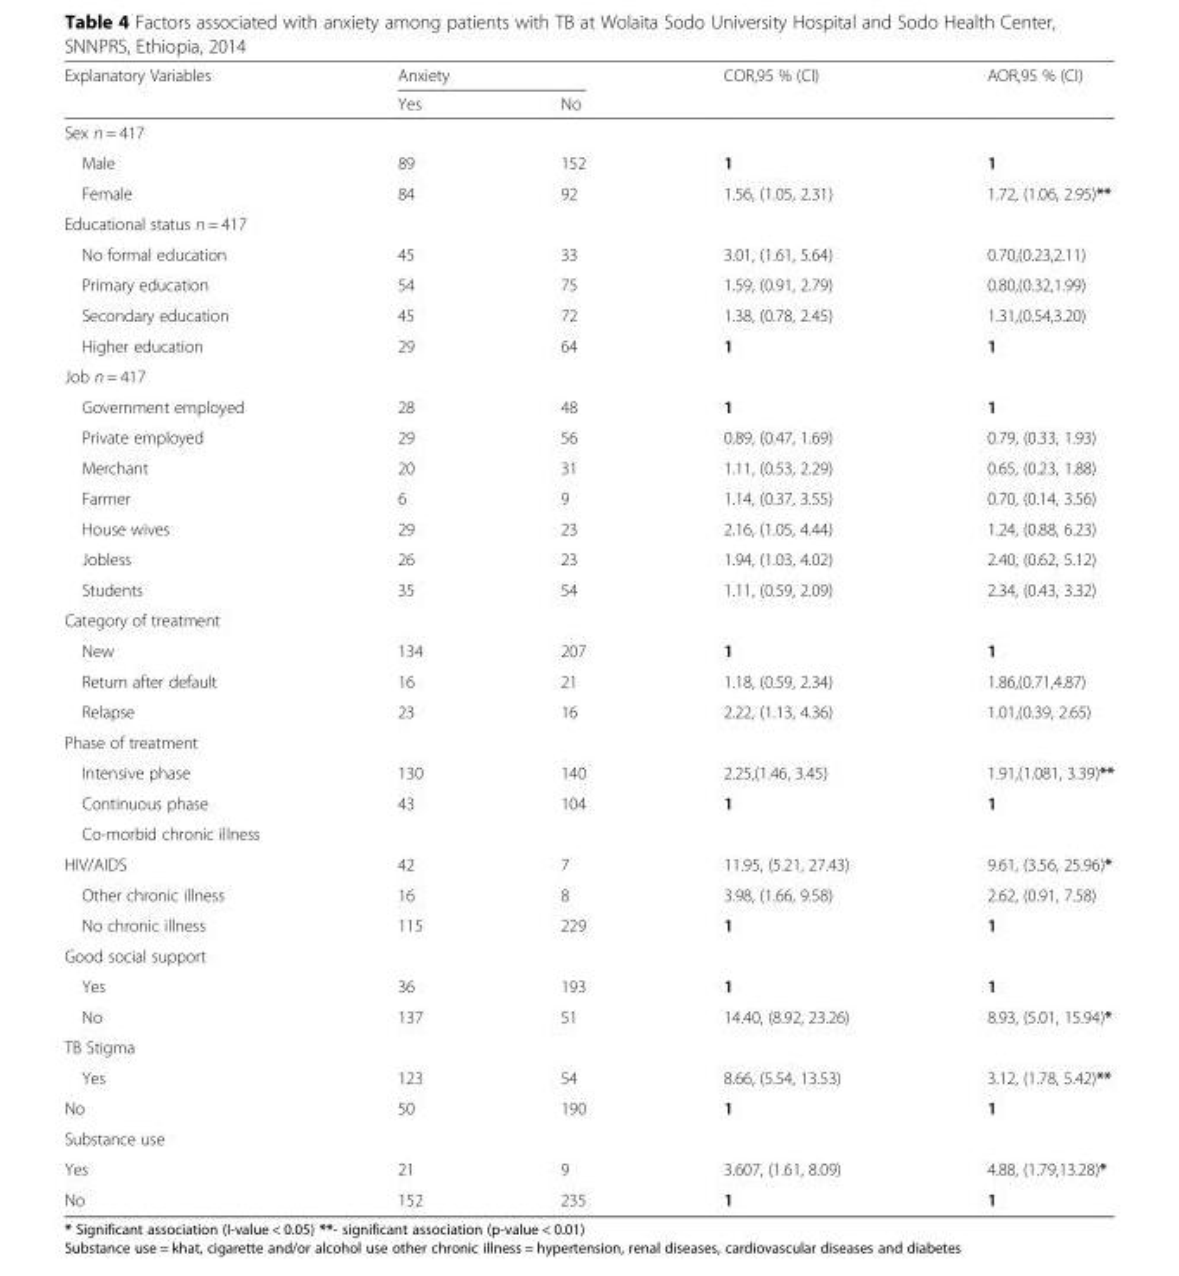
<table><thead><tr><td rowspan="2">Explanatory Variables</td><td colspan="2">Anxiety</td><td rowspan="2">COR,95 % (CI)</td><td rowspan="2">AOR,95 % (CI)</td></tr><tr><td>Yes</td><td>No</td></tr></thead><tbody><tr><td colspan="5">Sex n = 417</td></tr><tr><td>Male</td><td>89</td><td>152</td><td>1</td><td>1</td></tr><tr><td>Female</td><td>84</td><td>92</td><td>1.56, (1.05, 2.31)</td><td>1.72, (1.06, 2.95)**</td></tr><tr><td colspan="5">Educational status n = 417</td></tr><tr><td>No formal education</td><td>45</td><td>33</td><td>3.01, (1.61, 5.64)</td><td>0.70,(0.23,2.11)</td></tr><tr><td>Primary education</td><td>54</td><td>75</td><td>1.59, (0.91, 2.79)</td><td>0.80,(0.32,1.99)</td></tr><tr><td>Secondary education</td><td>45</td><td>72</td><td>1.38, (0.78, 2.45)</td><td>1.31,(0.54,3.20)</td></tr><tr><td>Higher education</td><td>29</td><td>64</td><td>1</td><td>1</td></tr><tr><td colspan="5">Job n = 417</td></tr><tr><td>Government employed</td><td>28</td><td>48</td><td>1</td><td>1</td></tr><tr><td>Private employed</td><td>29</td><td>56</td><td>0.89, (0.47, 1.69)</td><td>0.79, (0.33, 1.93)</td></tr><tr><td>Merchant</td><td>20</td><td>31</td><td>1.11, (0.53, 2.29)</td><td>0.65, (0.23, 1.88)</td></tr><tr><td>Farmer</td><td>6</td><td>9</td><td>1.14, (0.37, 3.55)</td><td>0.70, (0.14, 3.56)</td></tr><tr><td>House wives</td><td>29</td><td>23</td><td>2.16, (1.05, 4.44)</td><td>1.24, (0.88, 6.23)</td></tr><tr><td>Jobless</td><td>26</td><td>23</td><td>1.94, (1.03, 4.02)</td><td>2.40, (0.62, 5.12)</td></tr><tr><td>Students</td><td>35</td><td>54</td><td>1.11, (0.59, 2.09)</td><td>2.34, (0.43, 3.32)</td></tr><tr><td colspan="5">Category of treatment</td></tr><tr><td>New</td><td>134</td><td>207</td><td>1</td><td>1</td></tr><tr><td>Return after default</td><td>16</td><td>21</td><td>1.18, (0.59, 2.34)</td><td>1.86,(0.71,4.87)</td></tr><tr><td>Relapse</td><td>23</td><td>16</td><td>2.22, (1.13, 4.36)</td><td>1.01,(0.39, 2.65)</td></tr><tr><td colspan="5">Phase of treatment</td></tr><tr><td>Intensive phase</td><td>130</td><td>140</td><td>2.25,(1.46, 3.45)</td><td>1.91,(1.081, 3.39)**</td></tr><tr><td>Continuous phase</td><td>43</td><td>104</td><td>1</td><td>1</td></tr><tr><td colspan="5">Co-morbid chronic illness</td></tr><tr><td>HIV/AIDS</td><td>42</td><td>7</td><td>11.95, (5.21, 27.43)</td><td>9.61, (3.56, 25.96)*</td></tr><tr><td>Other chronic illness</td><td>16</td><td>8</td><td>3.98, (1.66, 9.58)</td><td>2.62, (0.91, 7.58)</td></tr><tr><td>No chronic illness</td><td>115</td><td>229</td><td>1</td><td>1</td></tr><tr><td colspan="5">Good social support</td></tr><tr><td>Yes</td><td>36</td><td>193</td><td>1</td><td>1</td></tr><tr><td>No</td><td>137</td><td>51</td><td>14.40, (8.92, 23.26)</td><td>8.93, (5.01, 15.94)*</td></tr><tr><td colspan="5">TB Stigma</td></tr><tr><td>Yes</td><td>123</td><td>54</td><td>8.66, (5.54, 13.53)</td><td>3.12, (1.78, 5.42)**</td></tr><tr><td>No</td><td>50</td><td>190</td><td>1</td><td>1</td></tr><tr><td colspan="5">Substance use</td></tr><tr><td>Yes</td><td>21</td><td>9</td><td>3.607, (1.61, 8.09)</td><td>4.88, (1.79,13.28)*</td></tr><tr><td>No</td><td>152</td><td>235</td><td>1</td><td>1</td></tr></tbody></table>